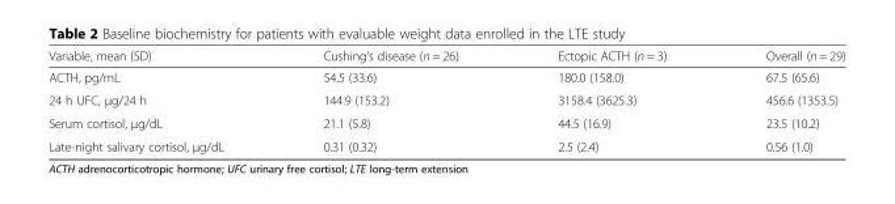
<table><thead><tr><td>Variable, mean (SD)</td><td>Cushing’s disease (n = 26)</td><td>Ectopic ACTH (n = 3)</td><td>Overall (n = 29)</td></tr></thead><tbody><tr><td>ACTH, pg/mL</td><td>54.5 (33.6)</td><td>180.0 (158.0)</td><td>67.5 (65.6)</td></tr><tr><td>24 h UFC, μg/24 h</td><td>144.9 (153.2)</td><td>3158.4 (3625.3)</td><td>456.6 (1353.5)</td></tr><tr><td>Serum cortisol, μg/dL</td><td>21.1 (5.8)</td><td>44.5 (16.9)</td><td>23.5 (10.2)</td></tr><tr><td>Late-night salivary cortisol, μg/dL</td><td>0.31 (0.32)</td><td>2.5 (2.4)</td><td>0.56 (1.0)</td></tr></tbody></table>